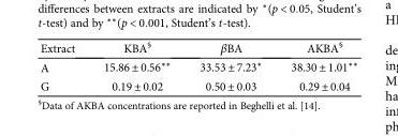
<table><thead><tr><td>Extract</td><td>KBA<sup>§</sup></td><td>βBA</td><td>AKBA<sup>§</sup></td></tr></thead><tbody><tr><td>A</td><td>15.86 ± 0.56∗∗</td><td>33.53 ± 7.23∗</td><td>38.30 ± 1.01∗∗</td></tr><tr><td>G</td><td>0.19 ± 0.02</td><td>0.50 ± 0.03</td><td>0.29 ± 0.04</td></tr></tbody></table>